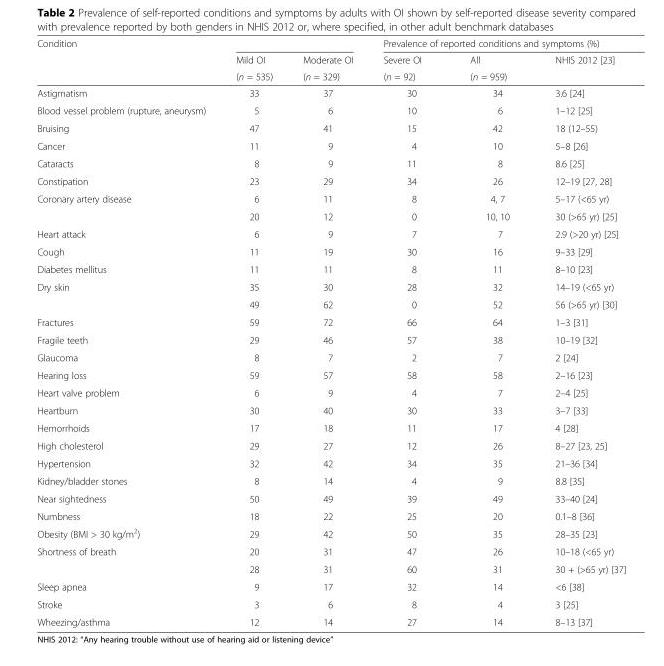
<table><thead><tr><td rowspan="3">Condition</td><td rowspan="3">Mild OI (n = 535)</td><td rowspan="3">Moderate OI (n = 329)</td><td colspan="3">Prevalence of reported conditions and symptoms (%)</td></tr><tr><td rowspan="2">Severe OI (n = 92)</td><td rowspan="2">All (n = 959)</td><td rowspan="2">NHIS 2012 [23]</td></tr><tr></tr></thead><tbody><tr><td>Astigmatism</td><td>33</td><td>37</td><td>30</td><td>34</td><td>3.6 [24]</td></tr><tr><td>Blood vessel problem (rupture, aneurysm)</td><td>5</td><td>6</td><td>10</td><td>6</td><td>1–12 [25]</td></tr><tr><td>Bruising</td><td>47</td><td>41</td><td>15</td><td>42</td><td>18 (12–55)</td></tr><tr><td>Cancer</td><td>11</td><td>9</td><td>4</td><td>10</td><td>5–8 [26]</td></tr><tr><td>Cataracts</td><td>8</td><td>9</td><td>11</td><td>8</td><td>8.6 [25]</td></tr><tr><td>Constipation</td><td>23</td><td>29</td><td>34</td><td>26</td><td>12–19 [27, 28]</td></tr><tr><td rowspan="2">Coronary artery disease</td><td>6</td><td>11</td><td>8</td><td>4, 7</td><td>5–17 (&lt;65 yr)</td></tr><tr><td>20</td><td>12</td><td>0</td><td>10, 10</td><td>30 (&gt;65 yr) [25]</td></tr><tr><td>Heart attack</td><td>6</td><td>9</td><td>7</td><td>7</td><td>2.9 (&gt;20 yr) [25]</td></tr><tr><td>Cough</td><td>11</td><td>19</td><td>30</td><td>16</td><td>9–33 [29]</td></tr><tr><td>Diabetes mellitus</td><td>11</td><td>11</td><td>8</td><td>11</td><td>8–10 [23]</td></tr><tr><td rowspan="2">Dry skin</td><td>35</td><td>30</td><td>28</td><td>32</td><td>14–19 (&lt;65 yr)</td></tr><tr><td>49</td><td>62</td><td>0</td><td>52</td><td>56 (&gt;65 yr) [30]</td></tr><tr><td>Fractures</td><td>59</td><td>72</td><td>66</td><td>64</td><td>1–3 [31]</td></tr><tr><td>Fragile teeth</td><td>29</td><td>46</td><td>57</td><td>38</td><td>10–19 [32]</td></tr><tr><td>Glaucoma</td><td>8</td><td>7</td><td>2</td><td>7</td><td>2 [24]</td></tr><tr><td>Hearing loss</td><td>59</td><td>57</td><td>58</td><td>58</td><td>2–16 [23]</td></tr><tr><td>Heart valve problem</td><td>6</td><td>9</td><td>4</td><td>7</td><td>2–4 [25]</td></tr><tr><td>Heartburn</td><td>30</td><td>40</td><td>30</td><td>33</td><td>3–7 [33]</td></tr><tr><td>Hemorrhoids</td><td>17</td><td>18</td><td>11</td><td>17</td><td>4 [28]</td></tr><tr><td>High cholesterol</td><td>29</td><td>27</td><td>12</td><td>26</td><td>8–27 [23, 25]</td></tr><tr><td>Hypertension</td><td>32</td><td>42</td><td>34</td><td>35</td><td>21–36 [34]</td></tr><tr><td>Kidney/bladder stones</td><td>8</td><td>14</td><td>4</td><td>9</td><td>8.8 [35]</td></tr><tr><td>Near sightedness</td><td>50</td><td>49</td><td>39</td><td>49</td><td>33–40 [24]</td></tr><tr><td>Numbness</td><td>18</td><td>22</td><td>25</td><td>20</td><td>0.1–8 [36]</td></tr><tr><td>Obesity (BMI &gt; 30 kg/m<sup>2</sup>)</td><td>29</td><td>42</td><td>50</td><td>35</td><td>28–35 [23]</td></tr><tr><td rowspan="2">Shortness of breath</td><td>20</td><td>31</td><td>47</td><td>26</td><td>10–18 (&lt;65 yr)</td></tr><tr><td>28</td><td>31</td><td>60</td><td>31</td><td>30 + (&gt;65 yr) [37]</td></tr><tr><td>Sleep apnea</td><td>9</td><td>17</td><td>32</td><td>14</td><td>&lt;6 [38]</td></tr><tr><td>Stroke</td><td>3</td><td>6</td><td>8</td><td>4</td><td>3 [25]</td></tr><tr><td>Wheezing/asthma</td><td>12</td><td>14</td><td>27</td><td>14</td><td>8–13 [37]</td></tr></tbody></table>